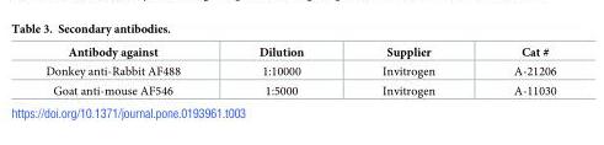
<table><thead><tr><td>Antibody against</td><td>Dilution</td><td>Supplier</td><td>Cat #</td></tr></thead><tbody><tr><td>Donkey anti-Rabbit AF488</td><td>1:10000</td><td>Invitrogen</td><td>A-21206</td></tr><tr><td>Goat anti-mouse AF546</td><td>1:5000</td><td>Invitrogen</td><td>A-11030</td></tr></tbody></table>